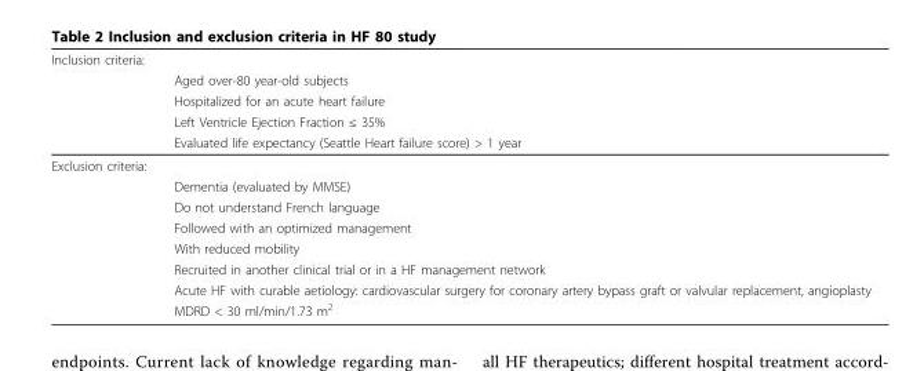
<table><thead><tr><td rowspan="5">Inclusion criteria:</td><td rowspan="5">Aged over-80 year-old subjects Hospitalized for an acute heart failure Left Ventricle Ejection Fraction ≤ 35% Evaluated life expectancy (Seattle Heart failure score) &gt; 1 year</td></tr><tr></tr><tr></tr><tr></tr><tr></tr></thead><tbody><tr><td colspan="2">Exclusion criteria:</td></tr><tr><td></td><td>Dementia (evaluated by MMSE)</td></tr><tr><td></td><td>Do not understand French language</td></tr><tr><td></td><td>Followed with an optimized management</td></tr><tr><td></td><td>With reduced mobility</td></tr><tr><td></td><td>Recruited in another clinical trial or in a HF management network</td></tr><tr><td></td><td>Acute HF with curable aetiology: cardiovascular surgery for coronary artery bypass graft or valvular replacement, angioplasty</td></tr><tr><td></td><td>MDRD &lt; 30 ml/min/1.73 m<sup>2</sup></td></tr></tbody></table>